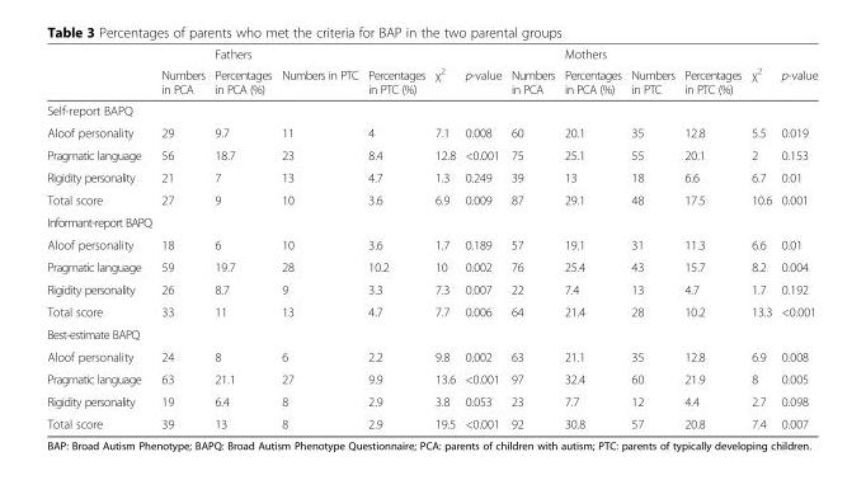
<table><thead><tr><td rowspan="2"></td><td rowspan="2">Numbers in PCA</td><td rowspan="2">Fathers Percentages in PCA (%)</td><td rowspan="2">Numbers in PTC</td><td rowspan="2">Percentages in PTC (%)</td><td rowspan="2">χ<sup>2</sup></td><td rowspan="2">p-value</td><td rowspan="2">Numbers in PCA</td><td rowspan="2">Mothers Percentages in PCA (%)</td><td rowspan="2">Numbers in PTC</td><td rowspan="2">Percentages in PTC (%)</td><td rowspan="2">χ<sup>2</sup></td><td rowspan="2">p-value</td></tr><tr></tr></thead><tbody><tr><td colspan="13">Self-report BAPQ</td></tr><tr><td>Aloof personality</td><td>29</td><td>9.7</td><td>11</td><td>4</td><td>7.1</td><td>0.008</td><td>60</td><td>20.1</td><td>35</td><td>12.8</td><td>5.5</td><td>0.019</td></tr><tr><td>Pragmatic language</td><td>56</td><td>18.7</td><td>23</td><td>8.4</td><td>12.8</td><td>&lt;0.001</td><td>75</td><td>25.1</td><td>55</td><td>20.1</td><td>2</td><td>0.153</td></tr><tr><td>Rigidity personality</td><td>21</td><td>7</td><td>13</td><td>4.7</td><td>1.3</td><td>0.249</td><td>39</td><td>13</td><td>18</td><td>6.6</td><td>6.7</td><td>0.01</td></tr><tr><td>Total score</td><td>27</td><td>9</td><td>10</td><td>3.6</td><td>6.9</td><td>0.009</td><td>87</td><td>29.1</td><td>48</td><td>17.5</td><td>10.6</td><td>0.001</td></tr><tr><td colspan="13">Informant-report BAPQ</td></tr><tr><td>Aloof personality</td><td>18</td><td>6</td><td>10</td><td>3.6</td><td>1.7</td><td>0.189</td><td>57</td><td>19.1</td><td>31</td><td>11.3</td><td>6.6</td><td>0.01</td></tr><tr><td>Pragmatic language</td><td>59</td><td>19.7</td><td>28</td><td>10.2</td><td>10</td><td>0.002</td><td>76</td><td>25.4</td><td>43</td><td>15.7</td><td>8.2</td><td>0.004</td></tr><tr><td>Rigidity personality</td><td>26</td><td>8.7</td><td>9</td><td>3.3</td><td>7.3</td><td>0.007</td><td>22</td><td>7.4</td><td>13</td><td>4.7</td><td>1.7</td><td>0.192</td></tr><tr><td>Total score</td><td>33</td><td>11</td><td>13</td><td>4.7</td><td>7.7</td><td>0.006</td><td>64</td><td>21.4</td><td>28</td><td>10.2</td><td>13.3</td><td>&lt;0.001</td></tr><tr><td colspan="13">Best-estimate BAPQ</td></tr><tr><td>Aloof personality</td><td>24</td><td>8</td><td>6</td><td>2.2</td><td>9.8</td><td>0.002</td><td>63</td><td>21.1</td><td>35</td><td>12.8</td><td>6.9</td><td>0.008</td></tr><tr><td>Pragmatic language</td><td>63</td><td>21.1</td><td>27</td><td>9.9</td><td>13.6</td><td>&lt;0.001</td><td>97</td><td>32.4</td><td>60</td><td>21.9</td><td>8</td><td>0.005</td></tr><tr><td>Rigidity personality</td><td>19</td><td>6.4</td><td>8</td><td>2.9</td><td>3.8</td><td>0.053</td><td>23</td><td>7.7</td><td>12</td><td>4.4</td><td>2.7</td><td>0.098</td></tr><tr><td>Total score</td><td>39</td><td>13</td><td>8</td><td>2.9</td><td>19.5</td><td>&lt;0.001</td><td>92</td><td>30.8</td><td>57</td><td>20.8</td><td>7.4</td><td>0.007</td></tr></tbody></table>